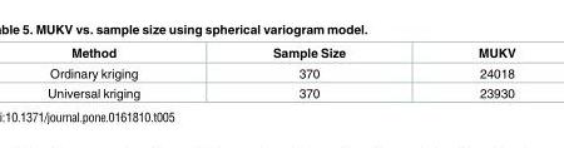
<table><thead><tr><td>Method</td><td>Sample Size</td><td>MUKV</td></tr></thead><tbody><tr><td>Ordinary kriging</td><td>370</td><td>24018</td></tr><tr><td>Universal kriging</td><td>370</td><td>23930</td></tr></tbody></table>